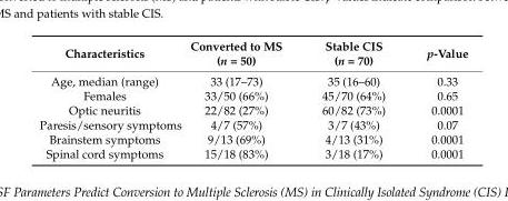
<table><thead><tr><td>Characteristics</td><td>Converted to MS (n = 50)</td><td>Stable CIS (n = 70)</td><td>p-Value</td></tr></thead><tbody><tr><td>Age, median (range)</td><td>33 (17–73)</td><td>35 (16–60)</td><td>0.33</td></tr><tr><td>Females</td><td>33/50 (66%)</td><td>45/70 (64%)</td><td>0.65</td></tr><tr><td>Optic neuritis</td><td>22/82 (27%)</td><td>60/82 (73%)</td><td>0.0001</td></tr><tr><td>Paresis/sensory symptoms</td><td>4/7 (57%)</td><td>3/7 (43%)</td><td>0.07</td></tr><tr><td>Brainstem symptoms</td><td>9/13 (69%)</td><td>4/13 (31%)</td><td>0.0001</td></tr><tr><td>Spinal cord symptoms</td><td>15/18 (83%)</td><td>3/18 (17%)</td><td>0.0001</td></tr></tbody></table>